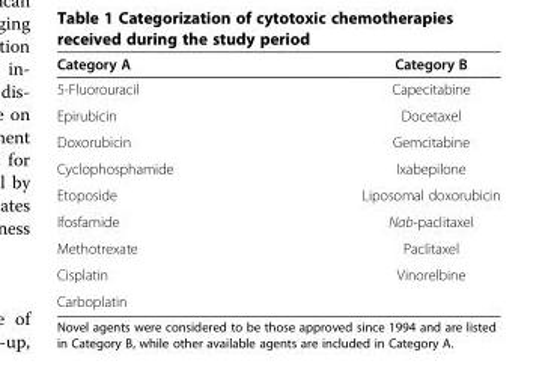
<table><thead><tr><td>Category A</td><td>Category B</td></tr></thead><tbody><tr><td>5-Fluorouracil</td><td>Capecitabine</td></tr><tr><td>Epirubicin</td><td>Docetaxel</td></tr><tr><td>Doxorubicin</td><td>Gemcitabine</td></tr><tr><td>Cyclophosphamide</td><td>Ixabepilone</td></tr><tr><td>Etoposide</td><td>Liposomal doxorubicin</td></tr><tr><td>Ifosfamide</td><td>Nab-paclitaxel</td></tr><tr><td>Methotrexate</td><td>Paclitaxel</td></tr><tr><td>Cisplatin</td><td>Vinorelbine</td></tr><tr><td>Carboplatin</td><td></td></tr></tbody></table>